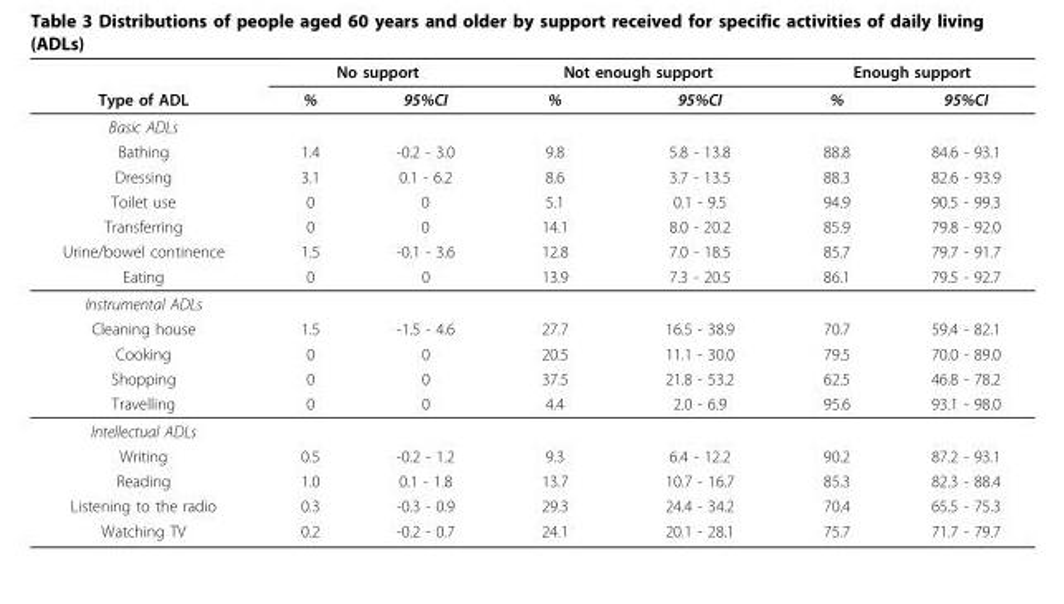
<table><thead><tr><td rowspan="2">Type of ADL</td><td colspan="2">No support</td><td colspan="2">Not enough support</td><td colspan="2">Enough support</td></tr><tr><td>%</td><td>95%CI</td><td>%</td><td>95%CI</td><td>%</td><td>95%CI</td></tr></thead><tbody><tr><td colspan="7">Basic ADLs</td></tr><tr><td>Bathing</td><td>1.4</td><td>-0.2 - 3.0</td><td>9.8</td><td>5.8 - 13.8</td><td>88.8</td><td>84.6 - 93.1</td></tr><tr><td>Dressing</td><td>3.1</td><td>0.1 - 6.2</td><td>8.6</td><td>3.7 - 13.5</td><td>88.3</td><td>82.6 - 93.9</td></tr><tr><td>Toilet use</td><td>0</td><td>0</td><td>5.1</td><td>0.1 - 9.5</td><td>94.9</td><td>90.5 - 99.3</td></tr><tr><td>Transferring</td><td>0</td><td>0</td><td>14.1</td><td>8.0 - 20.2</td><td>85.9</td><td>79.8 - 92.0</td></tr><tr><td>Urine/bowel continence</td><td>1.5</td><td>-0.1 - 3.6</td><td>12.8</td><td>7.0 - 18.5</td><td>85.7</td><td>79.7 - 91.7</td></tr><tr><td>Eating</td><td>0</td><td>0</td><td>13.9</td><td>7.3 - 20.5</td><td>86.1</td><td>79.5 - 92.7</td></tr><tr><td colspan="7">Instrumental ADLs</td></tr><tr><td>Cleaning house</td><td>1.5</td><td>-1.5 - 4.6</td><td>27.7</td><td>16.5 - 38.9</td><td>70.7</td><td>59.4 - 82.1</td></tr><tr><td>Cooking</td><td>0</td><td>0</td><td>20.5</td><td>11.1 - 30.0</td><td>79.5</td><td>70.0 - 89.0</td></tr><tr><td>Shopping</td><td>0</td><td>0</td><td>37.5</td><td>21.8 - 53.2</td><td>62.5</td><td>46.8 - 78.2</td></tr><tr><td>Travelling</td><td>0</td><td>0</td><td>4.4</td><td>2.0 - 6.9</td><td>95.6</td><td>93.1 - 98.0</td></tr><tr><td colspan="7">Intellectual ADLs</td></tr><tr><td>Writing</td><td>0.5</td><td>-0.2 - 1.2</td><td>9.3</td><td>6.4 - 12.2</td><td>90.2</td><td>87.2 - 93.1</td></tr><tr><td>Reading</td><td>1.0</td><td>0.1 - 1.8</td><td>13.7</td><td>10.7 - 16.7</td><td>85.3</td><td>82.3 - 88.4</td></tr><tr><td>Listening to the radio</td><td>0.3</td><td>-0.3 - 0.9</td><td>29.3</td><td>24.4 - 34.2</td><td>70.4</td><td>65.5 - 75.3</td></tr><tr><td>Watching TV</td><td>0.2</td><td>-0.2 - 0.7</td><td>24.1</td><td>20.1 - 28.1</td><td>75.7</td><td>71.7 - 79.7</td></tr></tbody></table>